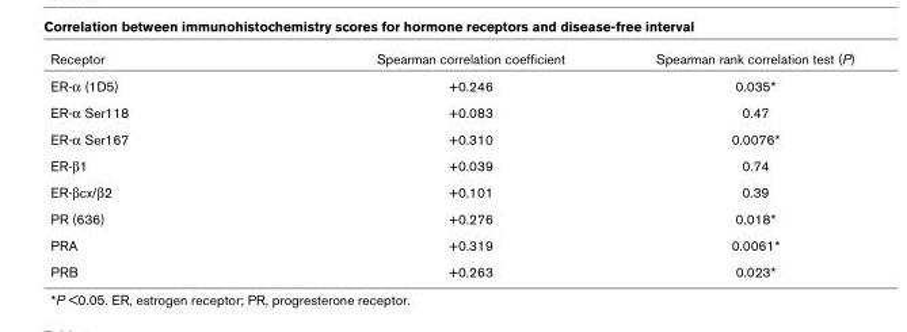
<table><thead><tr><td>Receptor</td><td>Spearman correlation coefficient</td><td>Spearman rank correlation test (P)</td></tr></thead><tbody><tr><td>ER-α (1D5)</td><td>+0.246</td><td>0.035*</td></tr><tr><td>ER-α Ser118</td><td>+0.083</td><td>0.47</td></tr><tr><td>ER-α Ser167</td><td>+0.310</td><td>0.0076*</td></tr><tr><td>ER-β1</td><td>+0.039</td><td>0.74</td></tr><tr><td>ER-βcx/β2</td><td>+0.101</td><td>0.39</td></tr><tr><td>PR (636)</td><td>+0.276</td><td>0.018*</td></tr><tr><td>PRA</td><td>+0.319</td><td>0.0061*</td></tr><tr><td>PRB</td><td>+0.263</td><td>0.023*</td></tr></tbody></table>